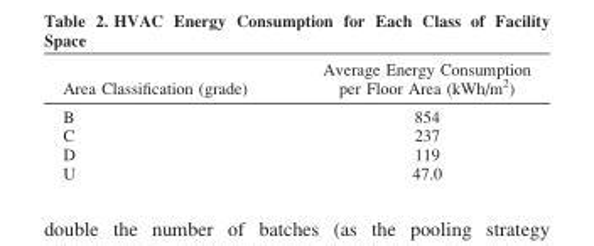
<table><thead><tr><td>Area Classification (grade)</td><td>Average Energy Consumption per Floor Area (kWh/m<sup>2</sup>)</td></tr></thead><tbody><tr><td>B</td><td>854</td></tr><tr><td>C</td><td>237</td></tr><tr><td>D</td><td>119</td></tr><tr><td>U</td><td>47.0</td></tr></tbody></table>